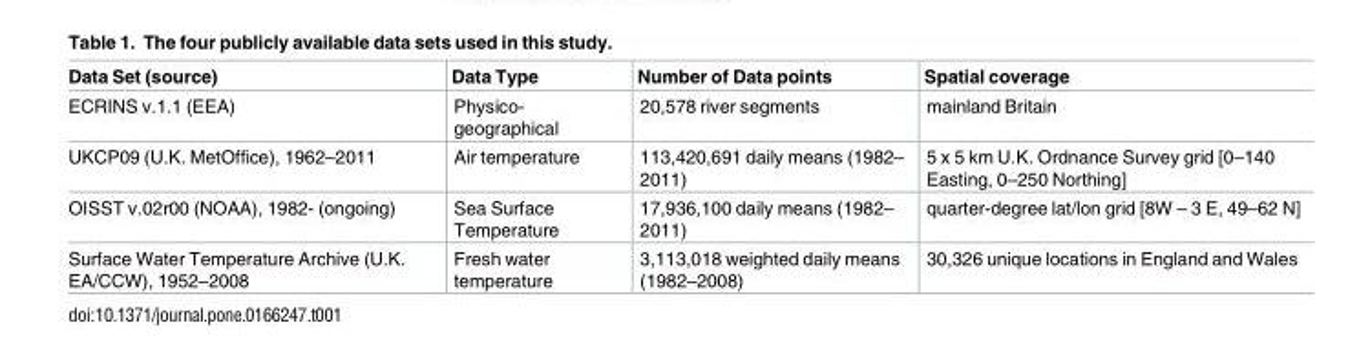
<table><thead><tr><td>Data Set (source)</td><td>Data Type</td><td>Number of Data points</td><td>Spatial coverage</td></tr></thead><tbody><tr><td>ECRINS v.1.1 (EEA)</td><td>Physico- geographical</td><td>20,578 river segments</td><td>mainland Britain</td></tr><tr><td>UKCP09 (U.K. MetOffice), 1962–2011</td><td>Air temperature</td><td>113,420,691 daily means (1982– 2011)</td><td>5 x 5 km U.K. Ordnance Survey grid [0–140 Easting, 0–250 Northing]</td></tr><tr><td>OISST v.02r00 (NOAA), 1982- (ongoing)</td><td>Sea Surface Temperature</td><td>17,936,100 daily means (1982– 2011)</td><td>quarter-degree lat/lon grid [8W – 3 E, 49–62 N]</td></tr><tr><td>Surface Water Temperature Archive (U.K. EA/CCW), 1952–2008</td><td>Fresh water temperature</td><td>3,113,018 weighted daily means (1982–2008)</td><td>30,326 unique locations in England and Wales</td></tr></tbody></table>